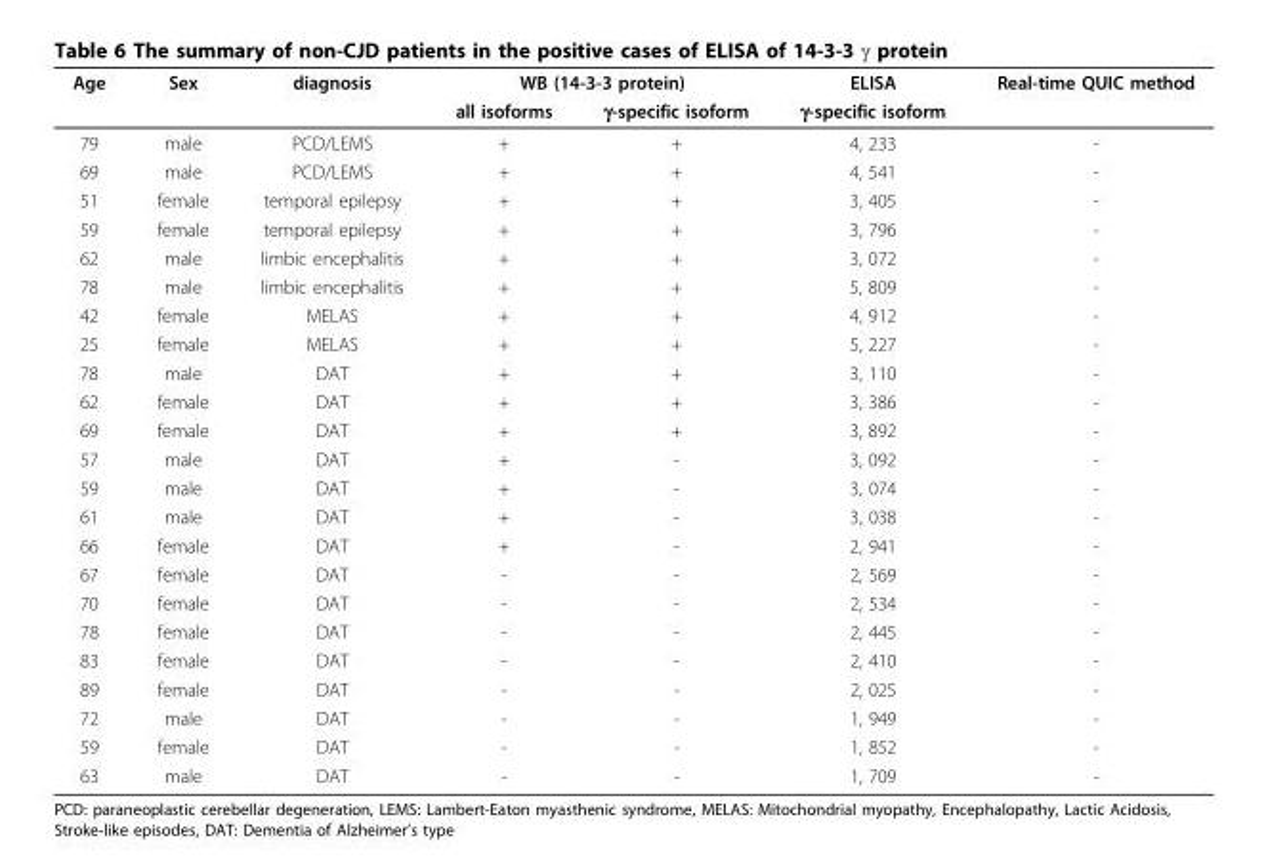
<table><thead><tr><td rowspan="2">Age</td><td rowspan="2">Sex</td><td rowspan="2">diagnosis</td><td colspan="2">WB (14-3-3 protein)</td><td rowspan="2">ELISA γ-specific isoform</td><td rowspan="2">Real-time QUIC method</td></tr><tr><td>all isoforms</td><td>γ-specific isoform</td></tr></thead><tbody><tr><td>79</td><td>male</td><td>PCD/LEMS</td><td>+</td><td>+</td><td>4, 233</td><td>-</td></tr><tr><td>69</td><td>male</td><td>PCD/LEMS</td><td>+</td><td>+</td><td>4, 541</td><td>-</td></tr><tr><td>51</td><td>female</td><td>temporal epilepsy</td><td>+</td><td>+</td><td>3, 405</td><td>-</td></tr><tr><td>59</td><td>female</td><td>temporal epilepsy</td><td>+</td><td>+</td><td>3, 796</td><td>-</td></tr><tr><td>62</td><td>male</td><td>limbic encephalitis</td><td>+</td><td>+</td><td>3, 072</td><td>-</td></tr><tr><td>78</td><td>male</td><td>limbic encephalitis</td><td>+</td><td>+</td><td>5, 809</td><td>-</td></tr><tr><td>42</td><td>female</td><td>MELAS</td><td>+</td><td>+</td><td>4, 912</td><td>-</td></tr><tr><td>25</td><td>female</td><td>MELAS</td><td>+</td><td>+</td><td>5, 227</td><td>-</td></tr><tr><td>78</td><td>male</td><td>DAT</td><td>+</td><td>+</td><td>3, 110</td><td>-</td></tr><tr><td>62</td><td>female</td><td>DAT</td><td>+</td><td>+</td><td>3, 386</td><td>-</td></tr><tr><td>69</td><td>female</td><td>DAT</td><td>+</td><td>+</td><td>3, 892</td><td>-</td></tr><tr><td>57</td><td>male</td><td>DAT</td><td>+</td><td>-</td><td>3, 092</td><td>-</td></tr><tr><td>59</td><td>male</td><td>DAT</td><td>+</td><td>-</td><td>3, 074</td><td>-</td></tr><tr><td>61</td><td>male</td><td>DAT</td><td>+</td><td>-</td><td>3, 038</td><td>-</td></tr><tr><td>66</td><td>female</td><td>DAT</td><td>+</td><td>-</td><td>2, 941</td><td>-</td></tr><tr><td>67</td><td>female</td><td>DAT</td><td>-</td><td>-</td><td>2, 569</td><td>-</td></tr><tr><td>70</td><td>female</td><td>DAT</td><td>-</td><td>-</td><td>2, 534</td><td>-</td></tr><tr><td>78</td><td>female</td><td>DAT</td><td>-</td><td>-</td><td>2, 445</td><td>-</td></tr><tr><td>83</td><td>female</td><td>DAT</td><td>-</td><td>-</td><td>2, 410</td><td>-</td></tr><tr><td>89</td><td>female</td><td>DAT</td><td>-</td><td>-</td><td>2, 025</td><td>-</td></tr><tr><td>72</td><td>male</td><td>DAT</td><td>-</td><td>-</td><td>1, 949</td><td>-</td></tr><tr><td>59</td><td>female</td><td>DAT</td><td>-</td><td>-</td><td>1, 852</td><td>-</td></tr><tr><td>63</td><td>male</td><td>DAT</td><td>-</td><td>-</td><td>1, 709</td><td>-</td></tr></tbody></table>